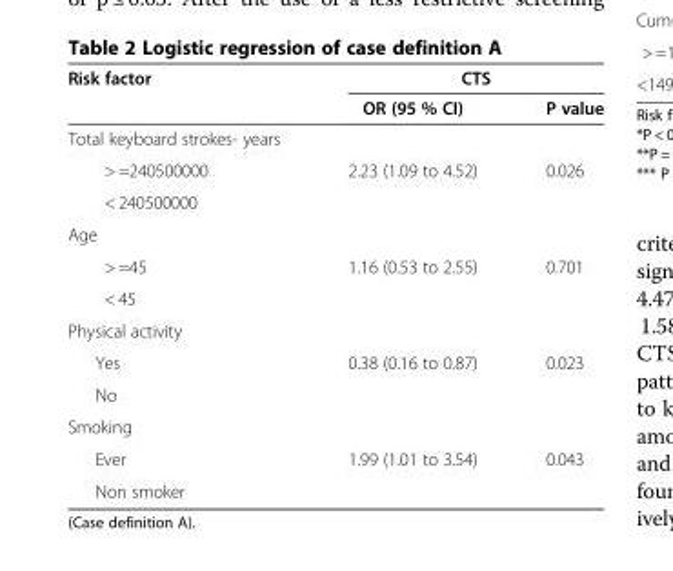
<table><thead><tr><td rowspan="2">Risk factor</td><td colspan="2">CTS</td></tr><tr><td>OR (95 % CI)</td><td>P value</td></tr></thead><tbody><tr><td colspan="3">Total keyboard strokes- years</td></tr><tr><td>&gt; =240500000</td><td>2.23 (1.09 to 4.52)</td><td>0.026</td></tr><tr><td colspan="3">&lt; 240500000</td></tr><tr><td colspan="3">Age</td></tr><tr><td>&gt; =45</td><td>1.16 (0.53 to 2.55)</td><td>0.701</td></tr><tr><td colspan="3">&lt; 45</td></tr><tr><td colspan="3">Physical activity</td></tr><tr><td>Yes</td><td>0.38 (0.16 to 0.87)</td><td>0.023</td></tr><tr><td colspan="3">No</td></tr><tr><td colspan="3">Smoking</td></tr><tr><td>Ever</td><td>1.99 (1.01 to 3.54)</td><td>0.043</td></tr><tr><td>Non smoker</td><td></td><td></td></tr></tbody></table>